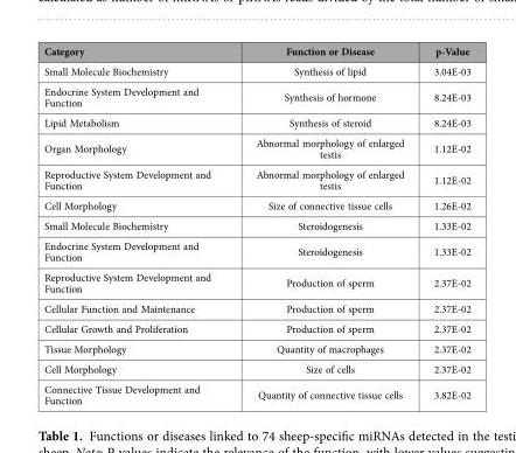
<table><thead><tr><td>Category</td><td>Function or Disease</td><td>p-Value</td></tr></thead><tbody><tr><td>Small Molecule Biochemistry</td><td>Synthesis of lipid</td><td>3.04E-03</td></tr><tr><td>Endocrine System Development and Function</td><td>Synthesis of hormone</td><td>8.24E-03</td></tr><tr><td>Lipid Metabolism</td><td>Synthesis of steroid</td><td>8.24E-03</td></tr><tr><td>Organ Morphology</td><td>Abnormal morphology of enlarged testis</td><td>1.12E-02</td></tr><tr><td>Reproductive System Development and Function</td><td>Abnormal morphology of enlarged testis</td><td>1.12E-02</td></tr><tr><td>Cell Morphology</td><td>Size of connective tissue cells</td><td>1.26E-02</td></tr><tr><td>Small Molecule Biochemistry</td><td>Steroidogenesis</td><td>1.33E-02</td></tr><tr><td>Endocrine System Development and Function</td><td>Steroidogenesis</td><td>1.33E-02</td></tr><tr><td>Reproductive System Development and Function</td><td>Production of sperm</td><td>2.37E-02</td></tr><tr><td>Cellular Function and Maintenance</td><td>Production of sperm</td><td>2.37E-02</td></tr><tr><td>Cellular Growth and Proliferation</td><td>Production of sperm</td><td>2.37E-02</td></tr><tr><td>Tissue Morphology</td><td>Quantity of macrophages</td><td>2.37E-02</td></tr><tr><td>Cell Morphology</td><td>Size of cells</td><td>2.37E-02</td></tr><tr><td>Connective Tissue Development and Function</td><td>Quantity of connective tissue cells</td><td>3.82E-02</td></tr></tbody></table>